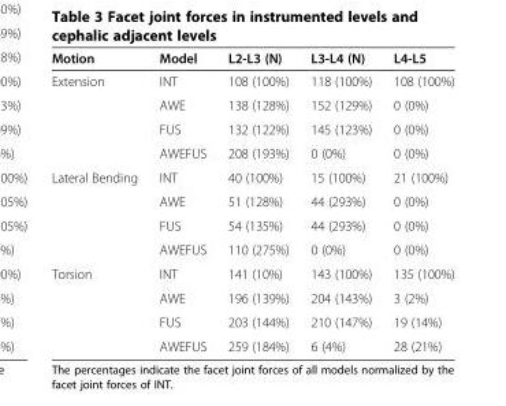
<table><thead><tr><td>Motion</td><td>Model</td><td>L2-L3 (N)</td><td>L3-L4 (N)</td><td>L4-L5</td></tr></thead><tbody><tr><td rowspan="4">Extension</td><td>INT</td><td>108 (100%)</td><td>118 (100%)</td><td>108 (100%)</td></tr><tr><td>AWE</td><td>138 (128%)</td><td>152 (129%)</td><td>0 (0%)</td></tr><tr><td>FUS</td><td>132 (122%)</td><td>145 (123%)</td><td>0 (0%)</td></tr><tr><td>AWEFUS</td><td>208 (193%)</td><td>0 (0%)</td><td>0 (0%)</td></tr><tr><td rowspan="4">Lateral Bending</td><td>INT</td><td>40 (100%)</td><td>15 (100%)</td><td>21 (100%)</td></tr><tr><td>AWE</td><td>51 (128%)</td><td>44 (293%)</td><td>0 (0%)</td></tr><tr><td>FUS</td><td>54 (135%)</td><td>44 (293%)</td><td>0 (0%)</td></tr><tr><td>AWEFUS</td><td>110 (275%)</td><td>0 (0%)</td><td>0 (0%)</td></tr><tr><td rowspan="4">Torsion</td><td>INT</td><td>141 (10%)</td><td>143 (100%)</td><td>135 (100%)</td></tr><tr><td>AWE</td><td>196 (139%)</td><td>204 (143%)</td><td>3 (2%)</td></tr><tr><td>FUS</td><td>203 (144%)</td><td>210 (147%)</td><td>19 (14%)</td></tr><tr><td>AWEFUS</td><td>259 (184%)</td><td>6 (4%)</td><td>28 (21%)</td></tr></tbody></table>